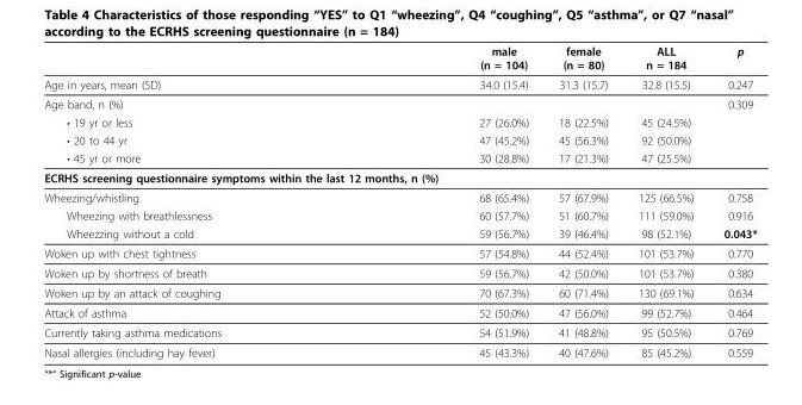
<table><thead><tr><td></td><td>male (n = 104)</td><td>female (n = 80)</td><td>ALL n = 184</td><td>p</td></tr></thead><tbody><tr><td>Age in years, mean (SD)</td><td>34.0 (15.4)</td><td>31.3 (15.7)</td><td>32.8 (15.5)</td><td>0.247</td></tr><tr><td>Age band, n (%)</td><td></td><td></td><td></td><td>0.309</td></tr><tr><td>• 19 yr or less</td><td>27 (26.0%)</td><td>18 (22.5%)</td><td>45 (24.5%)</td><td></td></tr><tr><td>• 20 to 44 yr</td><td>47 (45.2%)</td><td>45 (56.3%)</td><td>92 (50.0%)</td><td></td></tr><tr><td>• 45 yr or more</td><td>30 (28.8%)</td><td>17 (21.3%)</td><td>47 (25.5%)</td><td></td></tr><tr><td colspan="5">ECRHS screening questionnaire symptoms within the last 12 months, n (%)</td></tr><tr><td>Wheezing/whistling</td><td>68 (65.4%)</td><td>57 (67.9%)</td><td>125 (66.5%)</td><td>0.758</td></tr><tr><td>Wheezing with breathlessness</td><td>60 (57.7%)</td><td>51 (60.7%)</td><td>111 (59.0%)</td><td>0.916</td></tr><tr><td>Wheezzing without a cold</td><td>59 (56.7%)</td><td>39 (46.4%)</td><td>98 (52.1%)</td><td>0.043*</td></tr><tr><td>Woken up with chest tightness</td><td>57 (54.8%)</td><td>44 (52.4%)</td><td>101 (53.7%)</td><td>0.770</td></tr><tr><td>Woken up by shortness of breath</td><td>59 (56.7%)</td><td>42 (50.0%)</td><td>101 (53.7%)</td><td>0.380</td></tr><tr><td>Woken up by an attack of coughing</td><td>70 (67.3%)</td><td>60 (71.4%)</td><td>130 (69.1%)</td><td>0.634</td></tr><tr><td>Attack of asthma</td><td>52 (50.0%)</td><td>47 (56.0%)</td><td>99 (52.7%)</td><td>0.464</td></tr><tr><td>Currently taking asthma medications</td><td>54 (51.9%)</td><td>41 (48.8%)</td><td>95 (50.5%)</td><td>0.769</td></tr><tr><td>Nasal allergies (including hay fever)</td><td>45 (43.3%)</td><td>40 (47.6%)</td><td>85 (45.2%)</td><td>0.559</td></tr></tbody></table>